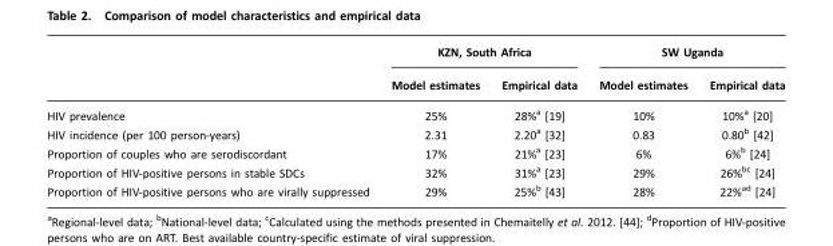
<table><thead><tr><td rowspan="2"></td><td colspan="2">KZN, South Africa</td><td colspan="2">SW Uganda</td></tr><tr><td>Model estimates</td><td>Empirical data</td><td>Model estimates</td><td>Empirical data</td></tr></thead><tbody><tr><td>HIV prevalence</td><td>25%</td><td>28%<sup>a</sup> [19]</td><td>10%</td><td>10%<sup>a</sup> [20]</td></tr><tr><td>HIV incidence (per 100 person-years)</td><td>2.31</td><td>2.20<sup>a</sup> [32]</td><td>0.83</td><td>0.80<sup>b</sup> [42]</td></tr><tr><td>Proportion of couples who are serodiscordant</td><td>17%</td><td>21%<sup>a</sup> [23]</td><td>6%</td><td>6%<sup>b</sup> [24]</td></tr><tr><td>Proportion of HIV-positive persons in stable SDCs</td><td>32%</td><td>31%<sup>a</sup> [23]</td><td>29%</td><td>26%<sup>bc</sup> [24]</td></tr><tr><td>Proportion of HIV-positive persons who are virally suppressed</td><td>29%</td><td>25%<sup>b</sup> [43]</td><td>28%</td><td>22%<sup>ad</sup> [24]</td></tr></tbody></table>